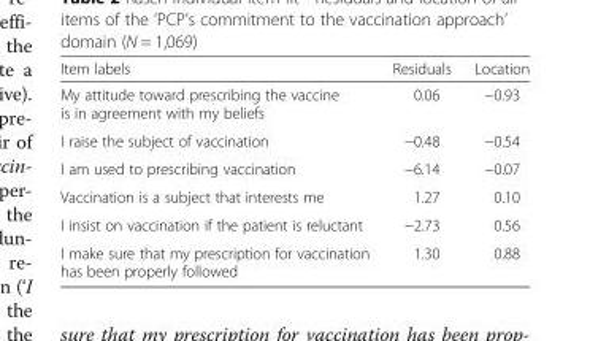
<table><thead><tr><td>Item labels</td><td>Residuals</td><td>Location</td></tr></thead><tbody><tr><td>My attitude toward prescribing the vaccine is in agreement with my beliefs</td><td>0.06</td><td>−0.93</td></tr><tr><td>I raise the subject of vaccination</td><td>−0.48</td><td>−0.54</td></tr><tr><td>I am used to prescribing vaccination</td><td>−6.14</td><td>−0.07</td></tr><tr><td>Vaccination is a subject that interests me</td><td>1.27</td><td>0.10</td></tr><tr><td>I insist on vaccination if the patient is reluctant</td><td>−2.73</td><td>0.56</td></tr><tr><td>I make sure that my prescription for vaccination has been properly followed</td><td>1.30</td><td>0.88</td></tr></tbody></table>